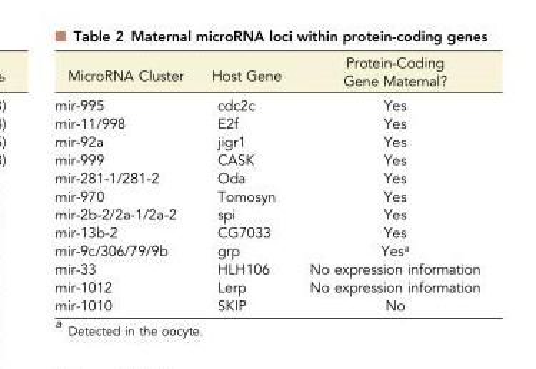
<table><thead><tr><td>MicroRNA Cluster</td><td>Host Gene</td><td>Protein-Coding Gene Maternal?</td></tr></thead><tbody><tr><td>mir-995</td><td>cdc2c</td><td>Yes</td></tr><tr><td>mir-11/998</td><td>E2f</td><td>Yes</td></tr><tr><td>mir-92a</td><td>jigr1</td><td>Yes</td></tr><tr><td>mir-999</td><td>CASK</td><td>Yes</td></tr><tr><td>mir-281-1/281-2</td><td>Oda</td><td>Yes</td></tr><tr><td>mir-970</td><td>Tomosyn</td><td>Yes</td></tr><tr><td>mir-2b-2/2a-1/2a-2</td><td>spi</td><td>Yes</td></tr><tr><td>mir-13b-2</td><td>CG7033</td><td>Yes</td></tr><tr><td>mir-9c/306/79/9b</td><td>grp</td><td>Yes<sup>a</sup></td></tr><tr><td>mir-33</td><td>HLH106</td><td>No expression information</td></tr><tr><td>mir-1012</td><td>Lerp</td><td>No expression information</td></tr><tr><td>mir-1010</td><td>SKIP</td><td>No</td></tr></tbody></table>